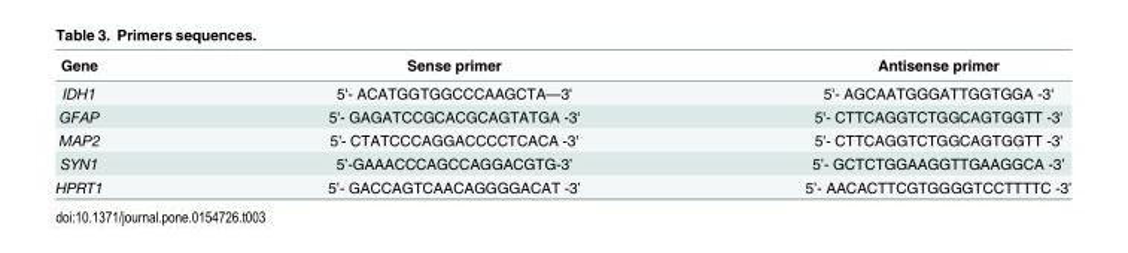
<table><thead><tr><td>Gene</td><td>Sense primer</td><td>Antisense primer</td></tr></thead><tbody><tr><td>IDH1</td><td>5&#x27;- ACATGGTGGCCCAAGCTA—3&#x27;</td><td>5&#x27;- AGCAATGGGATTGGTGGA -3&#x27;</td></tr><tr><td>GFAP</td><td>5&#x27;- GAGATCCGCACGCAGTATGA -3&#x27;</td><td>5&#x27;- CTTCAGGTCTGGCAGTGGTT -3&#x27;</td></tr><tr><td>MAP2</td><td>5&#x27;- CTATCCCAGGACCCCTCACA -3&#x27;</td><td>5&#x27;- CTTCAGGTCTGGCAGTGGTT -3&#x27;</td></tr><tr><td>SYN1</td><td>5’-GAAACCCAGCCAGGACGTG-3’</td><td>5’- GCTCTGGAAGGTTGAAGGCA -3’</td></tr><tr><td>HPRT1</td><td>5’- GACCAGTCAACAGGGGACAT -3’</td><td>5’- AACACTTCGTGGGGTCCTTTTC -3’</td></tr></tbody></table>